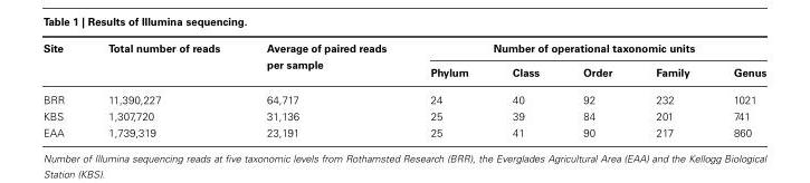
<table><thead><tr><td rowspan="2">Site</td><td rowspan="2">Total number of reads</td><td rowspan="2">Average of paired reads per sample</td><td colspan="5">Number of operational taxonomic units</td></tr><tr><td>Phylum</td><td>Class</td><td>Order</td><td>Family</td><td>Genus</td></tr></thead><tbody><tr><td>BRR</td><td>11,390,227</td><td>64,717</td><td>24</td><td>40</td><td>92</td><td>232</td><td>1021</td></tr><tr><td>KBS</td><td>1,307,720</td><td>31,136</td><td>25</td><td>39</td><td>84</td><td>201</td><td>741</td></tr><tr><td>EAA</td><td>1,739,319</td><td>23,191</td><td>25</td><td>41</td><td>90</td><td>217</td><td>860</td></tr></tbody></table>